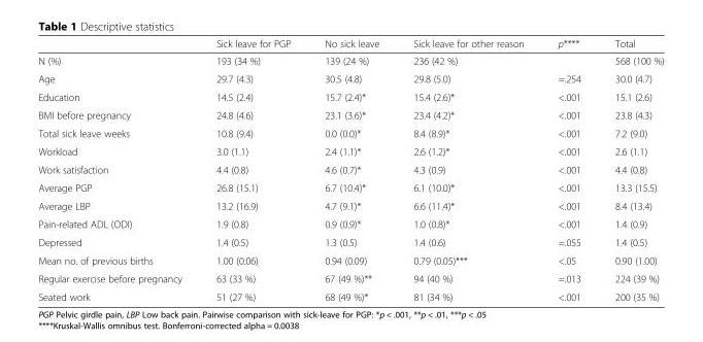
<table><thead><tr><td></td><td>Sick leave for PGP</td><td>No sick leave</td><td>Sick leave for other reason</td><td>p****</td><td>Total</td></tr></thead><tbody><tr><td>N (%)</td><td>193 (34 %)</td><td>139 (24 %)</td><td>236 (42 %)</td><td></td><td>568 (100 %)</td></tr><tr><td>Age</td><td>29.7 (4.3)</td><td>30.5 (4.8)</td><td>29.8 (5.0)</td><td>=.254</td><td>30.0 (4.7)</td></tr><tr><td>Education</td><td>14.5 (2.4)</td><td>15.7 (2.4)*</td><td>15.4 (2.6)*</td><td>&lt;.001</td><td>15.1 (2.6)</td></tr><tr><td>BMI before pregnancy</td><td>24.8 (4.6)</td><td>23.1 (3.6)*</td><td>23.4 (4.2)*</td><td>&lt;.001</td><td>23.8 (4.3)</td></tr><tr><td>Total sick leave weeks</td><td>10.8 (9.4)</td><td>0.0 (0.0)*</td><td>8.4 (8.9)*</td><td>&lt;.001</td><td>7.2 (9.0)</td></tr><tr><td>Workload</td><td>3.0 (1.1)</td><td>2.4 (1.1)*</td><td>2.6 (1.2)*</td><td>&lt;.001</td><td>2.6 (1.1)</td></tr><tr><td>Work satisfaction</td><td>4.4 (0.8)</td><td>4.6 (0.7)*</td><td>4.3 (0.9)</td><td>&lt;.001</td><td>4.4 (0.8)</td></tr><tr><td>Average PGP</td><td>26.8 (15.1)</td><td>6.7 (10.4)*</td><td>6.1 (10.0)*</td><td>&lt;.001</td><td>13.3 (15.5)</td></tr><tr><td>Average LBP</td><td>13.2 (16.9)</td><td>4.7 (9.1)*</td><td>6.6 (11.4)*</td><td>&lt;.001</td><td>8.4 (13.4)</td></tr><tr><td>Pain-related ADL (ODI)</td><td>1.9 (0.8)</td><td>0.9 (0.9)*</td><td>1.0 (0.8)*</td><td>&lt;.001</td><td>1.4 (0.9)</td></tr><tr><td>Depressed</td><td>1.4 (0.5)</td><td>1.3 (0.5)</td><td>1.4 (0.6)</td><td>=.055</td><td>1.4 (0.5)</td></tr><tr><td>Mean no. of previous births</td><td>1.00 (0.06)</td><td>0.94 (0.09)</td><td>0.79 (0.05)***</td><td>&lt;.05</td><td>0.90 (1.00)</td></tr><tr><td>Regular exercise before pregnancy</td><td>63 (33 %)</td><td>67 (49 %)**</td><td>94 (40 %)</td><td>=.013</td><td>224 (39 %)</td></tr><tr><td>Seated work</td><td>51 (27 %)</td><td>68 (49 %)*</td><td>81 (34 %)</td><td>&lt;.001</td><td>200 (35 %)</td></tr></tbody></table>